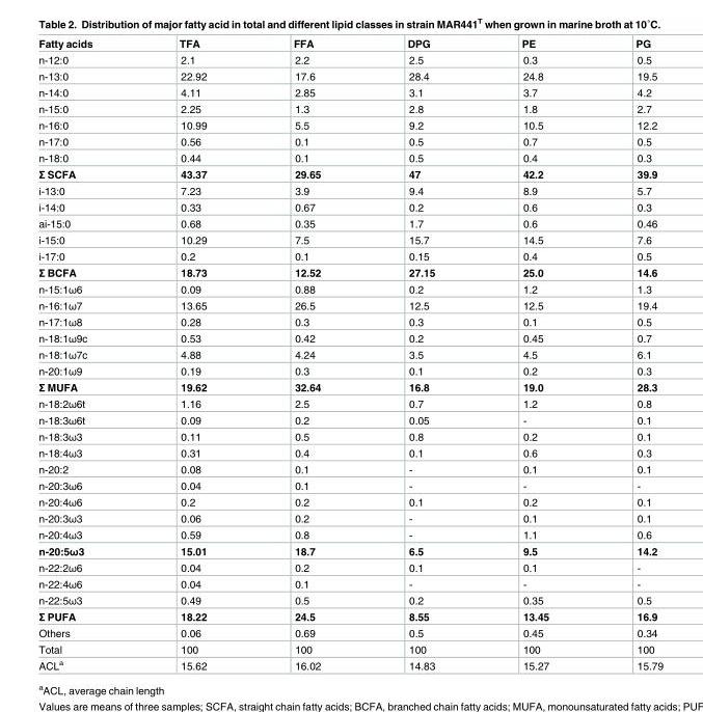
<table><thead><tr><td>Fatty acids</td><td>TFA</td><td>FFA</td><td>DPG</td><td>PE</td><td>PG</td></tr></thead><tbody><tr><td>n-12:0</td><td>2.1</td><td>2.2</td><td>2.5</td><td>0.3</td><td>0.5</td></tr><tr><td>n-13:0</td><td>22.92</td><td>17.6</td><td>28.4</td><td>24.8</td><td>19.5</td></tr><tr><td>n-14:0</td><td>4.11</td><td>2.85</td><td>3.1</td><td>3.7</td><td>4.2</td></tr><tr><td>n-15:0</td><td>2.25</td><td>1.3</td><td>2.8</td><td>1.8</td><td>2.7</td></tr><tr><td>n-16:0</td><td>10.99</td><td>5.5</td><td>9.2</td><td>10.5</td><td>12.2</td></tr><tr><td>n-17:0</td><td>0.56</td><td>0.1</td><td>0.5</td><td>0.7</td><td>0.5</td></tr><tr><td>n-18:0</td><td>0.44</td><td>0.1</td><td>0.5</td><td>0.4</td><td>0.3</td></tr><tr><td>Σ SCFA</td><td>43.37</td><td>29.65</td><td>47</td><td>42.2</td><td>39.9</td></tr><tr><td>i-13:0</td><td>7.23</td><td>3.9</td><td>9.4</td><td>8.9</td><td>5.7</td></tr><tr><td>i-14:0</td><td>0.33</td><td>0.67</td><td>0.2</td><td>0.6</td><td>0.3</td></tr><tr><td>ai-15:0</td><td>0.68</td><td>0.35</td><td>1.7</td><td>0.6</td><td>0.46</td></tr><tr><td>i-15:0</td><td>10.29</td><td>7.5</td><td>15.7</td><td>14.5</td><td>7.6</td></tr><tr><td>i-17:0</td><td>0.2</td><td>0.1</td><td>0.15</td><td>0.4</td><td>0.5</td></tr><tr><td>Σ BCFA</td><td>18.73</td><td>12.52</td><td>27.15</td><td>25.0</td><td>14.6</td></tr><tr><td>n-15:1ω6</td><td>0.09</td><td>0.88</td><td>0.2</td><td>1.2</td><td>1.3</td></tr><tr><td>n-16:1ω7</td><td>13.65</td><td>26.5</td><td>12.5</td><td>12.5</td><td>19.4</td></tr><tr><td>n-17:1ω8</td><td>0.28</td><td>0.3</td><td>0.3</td><td>0.1</td><td>0.5</td></tr><tr><td>n-18:1ω9c</td><td>0.53</td><td>0.42</td><td>0.2</td><td>0.45</td><td>0.7</td></tr><tr><td>n-18:1ω7c</td><td>4.88</td><td>4.24</td><td>3.5</td><td>4.5</td><td>6.1</td></tr><tr><td>n-20:1ω9</td><td>0.19</td><td>0.3</td><td>0.1</td><td>0.2</td><td>0.3</td></tr><tr><td>Σ MUFA</td><td>19.62</td><td>32.64</td><td>16.8</td><td>19.0</td><td>28.3</td></tr><tr><td>n-18:2ω6t</td><td>1.16</td><td>2.5</td><td>0.7</td><td>1.2</td><td>0.8</td></tr><tr><td>n-18:3ω6t</td><td>0.09</td><td>0.2</td><td>0.05</td><td>-</td><td>0.1</td></tr><tr><td>n-18:3ω3</td><td>0.11</td><td>0.5</td><td>0.8</td><td>0.2</td><td>0.1</td></tr><tr><td>n-18:4ω3</td><td>0.31</td><td>0.4</td><td>0.1</td><td>0.6</td><td>0.3</td></tr><tr><td>n-20:2</td><td>0.08</td><td>0.1</td><td>-</td><td>0.1</td><td>0.1</td></tr><tr><td>n-20:3ω6</td><td>0.04</td><td>0.1</td><td>-</td><td>-</td><td>-</td></tr><tr><td>n-20:4ω6</td><td>0.2</td><td>0.2</td><td>0.1</td><td>0.2</td><td>0.1</td></tr><tr><td>n-20:3ω3</td><td>0.06</td><td>0.2</td><td>-</td><td>0.1</td><td>0.1</td></tr><tr><td>n-20:4ω3</td><td>0.59</td><td>0.8</td><td>-</td><td>1.1</td><td>0.6</td></tr><tr><td>n-20:5ω3</td><td>15.01</td><td>18.7</td><td>6.5</td><td>9.5</td><td>14.2</td></tr><tr><td>n-22:2ω6</td><td>0.04</td><td>0.2</td><td>0.1</td><td>0.1</td><td>-</td></tr><tr><td>n-22:4ω6</td><td>0.04</td><td>0.1</td><td>-</td><td>-</td><td>-</td></tr><tr><td>n-22:5ω3</td><td>0.49</td><td>0.5</td><td>0.2</td><td>0.35</td><td>0.5</td></tr><tr><td>Σ PUFA</td><td>18.22</td><td>24.5</td><td>8.55</td><td>13.45</td><td>16.9</td></tr><tr><td>Others</td><td>0.06</td><td>0.69</td><td>0.5</td><td>0.45</td><td>0.34</td></tr><tr><td>Total</td><td>100</td><td>100</td><td>100</td><td>100</td><td>100</td></tr><tr><td>ACL<sup>a</sup></td><td>15.62</td><td>16.02</td><td>14.83</td><td>15.27</td><td>15.79</td></tr></tbody></table>